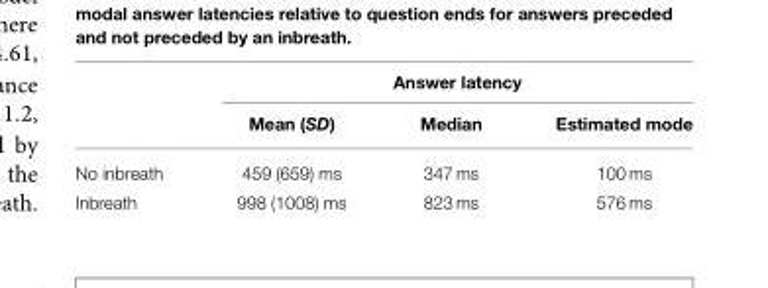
<table><thead><tr><td rowspan="2"></td><td colspan="3">Answer latency</td></tr><tr><td>Mean (SD)</td><td>Median</td><td>Estimated mode</td></tr></thead><tbody><tr><td>No inbreath</td><td>459 (659) ms</td><td>347 ms</td><td>100 ms</td></tr><tr><td>Inbreath</td><td>998 (1008) ms</td><td>823 ms</td><td>576 ms</td></tr></tbody></table>